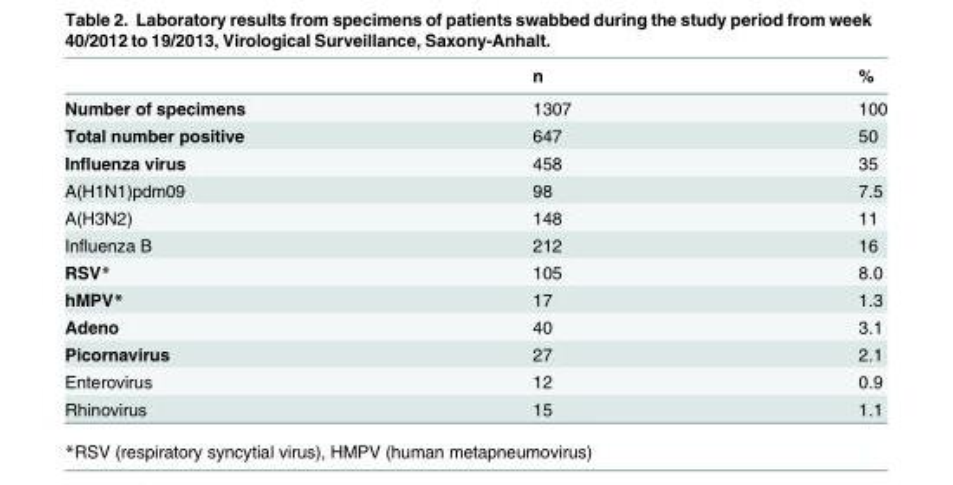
<table><thead><tr><td></td><td>n</td><td>%</td></tr></thead><tbody><tr><td>Number of specimens</td><td>1307</td><td>100</td></tr><tr><td>Total number positive</td><td>647</td><td>50</td></tr><tr><td>Influenza virus</td><td>458</td><td>35</td></tr><tr><td>A(H1N1)pdm09</td><td>98</td><td>7.5</td></tr><tr><td>A(H3N2)</td><td>148</td><td>11</td></tr><tr><td>Influenza B</td><td>212</td><td>16</td></tr><tr><td>RSV*</td><td>105</td><td>8.0</td></tr><tr><td>hMPV*</td><td>17</td><td>1.3</td></tr><tr><td>Adeno</td><td>40</td><td>3.1</td></tr><tr><td>Picornavirus</td><td>27</td><td>2.1</td></tr><tr><td>Enterovirus</td><td>12</td><td>0.9</td></tr><tr><td>Rhinovirus</td><td>15</td><td>1.1</td></tr></tbody></table>